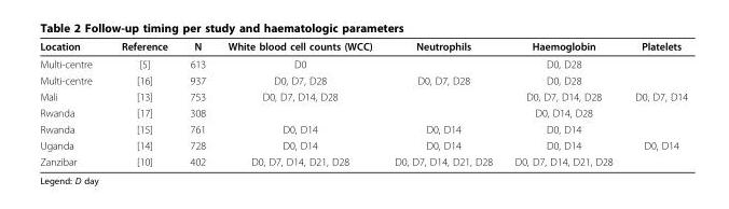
<table><thead><tr><td>Location</td><td>Reference</td><td>N</td><td>White blood cell counts (WCC)</td><td>Neutrophils</td><td>Haemoglobin</td><td>Platelets</td></tr></thead><tbody><tr><td>Multi-centre</td><td>[5]</td><td>613</td><td>D0</td><td></td><td>D0, D28</td><td></td></tr><tr><td>Multi-centre</td><td>[16]</td><td>937</td><td>D0, D7, D28</td><td>D0, D7, D28</td><td>D0, D28</td><td></td></tr><tr><td>Mali</td><td>[13]</td><td>753</td><td>D0, D7, D14, D28</td><td></td><td>D0, D7, D14, D28</td><td>D0, D7, D14</td></tr><tr><td>Rwanda</td><td>[17]</td><td>308</td><td></td><td></td><td>D0, D14, D28</td><td></td></tr><tr><td>Rwanda</td><td>[15]</td><td>761</td><td>D0, D14</td><td>D0, D14</td><td>D0, D14</td><td></td></tr><tr><td>Uganda</td><td>[14]</td><td>728</td><td>D0, D14</td><td>D0, D14</td><td>D0, D14</td><td>D0, D14</td></tr><tr><td>Zanzibar</td><td>[10]</td><td>402</td><td>D0, D7, D14, D21, D28</td><td>D0, D7, D14, D21, D28</td><td>D0, D7, D14, D21, D28</td><td></td></tr></tbody></table>